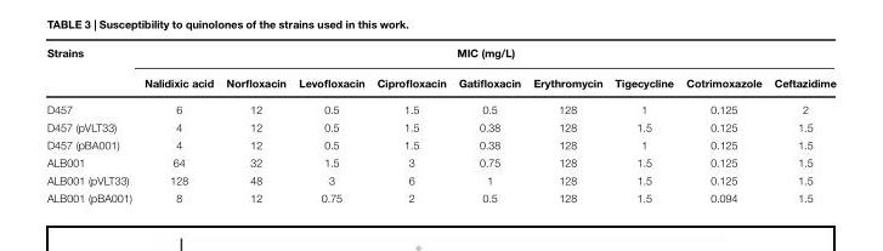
<table><thead><tr><td rowspan="2">Strains</td><td colspan="9">MIC (mg/L)</td></tr><tr><td>Nalidixic acid</td><td>Norfloxacin</td><td>Levofloxacin</td><td>Ciprofloxacin</td><td>Gatifloxacin</td><td>Erythromycin</td><td>Tigecycline</td><td>Cotrimoxazole</td><td>Ceftazidime</td></tr></thead><tbody><tr><td>D457</td><td>6</td><td>12</td><td>0.5</td><td>1.5</td><td>0.5</td><td>128</td><td>1</td><td>0.125</td><td>2</td></tr><tr><td>D457 (pVLT33)</td><td>4</td><td>12</td><td>0.5</td><td>1.5</td><td>0.38</td><td>128</td><td>1.5</td><td>0.125</td><td>1.5</td></tr><tr><td>D457 (pBA001)</td><td>4</td><td>12</td><td>0.5</td><td>1.5</td><td>0.38</td><td>128</td><td>1</td><td>0.125</td><td>1.5</td></tr><tr><td>ALB001</td><td>64</td><td>32</td><td>1.5</td><td>3</td><td>0.75</td><td>128</td><td>1.5</td><td>0.125</td><td>1.5</td></tr><tr><td>ALB001 (pVLT33)</td><td>128</td><td>48</td><td>3</td><td>6</td><td>1</td><td>128</td><td>1.5</td><td>0.125</td><td>1.5</td></tr><tr><td>ALB001 (pBA001)</td><td>8</td><td>12</td><td>0.75</td><td>2</td><td>0.5</td><td>128</td><td>1.5</td><td>0.094</td><td>1.5</td></tr></tbody></table>